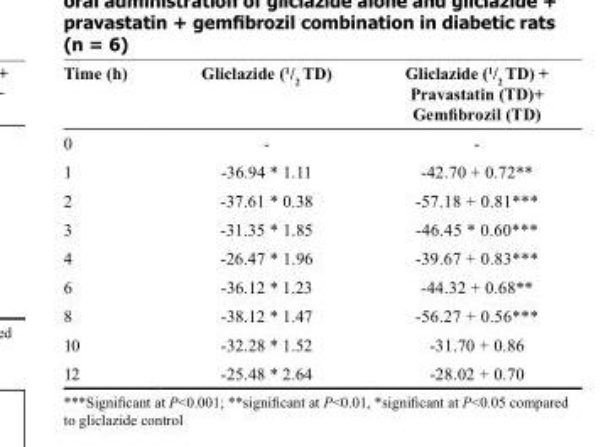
<table><thead><tr><td>Time (h)</td><td>Gliclazide (1/2 TD)</td><td>Gliclazide (1/2 TD) + Pravastatin (TD)+ Gemfibrozil (TD)</td></tr></thead><tbody><tr><td>0</td><td>-</td><td>-</td></tr><tr><td>1</td><td>-36.94 * 1.11</td><td>-42.70 + 0.72**</td></tr><tr><td>2</td><td>-37.61 * 0.38</td><td>-57.18 + 0.81***</td></tr><tr><td>3</td><td>-31.35 * 1.85</td><td>-46.45 * 0.60***</td></tr><tr><td>4</td><td>-26.47 * 1.96</td><td>-39.67 + 0.83***</td></tr><tr><td>6</td><td>-36.12 * 1.23</td><td>-44.32 + 0.68**</td></tr><tr><td>8</td><td>-38.12 * 1.47</td><td>-56.27 + 0.56***</td></tr><tr><td>10</td><td>-32.28 * 1.52</td><td>-31.70 + 0.86</td></tr><tr><td>12</td><td>-25.48 * 2.64</td><td>-28.02 + 0.70</td></tr></tbody></table>